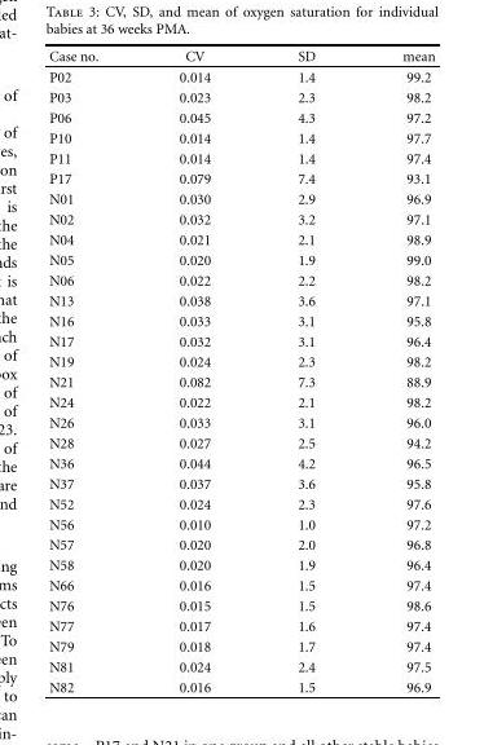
<table><thead><tr><td>Case no.</td><td>CV</td><td>SD</td><td>mean</td></tr></thead><tbody><tr><td>P02</td><td>0.014</td><td>1.4</td><td>99.2</td></tr><tr><td>P03</td><td>0.023</td><td>2.3</td><td>98.2</td></tr><tr><td>P06</td><td>0.045</td><td>4.3</td><td>97.2</td></tr><tr><td>P10</td><td>0.014</td><td>1.4</td><td>97.7</td></tr><tr><td>P11</td><td>0.014</td><td>1.4</td><td>97.4</td></tr><tr><td>P17</td><td>0.079</td><td>7.4</td><td>93.1</td></tr><tr><td>N01</td><td>0.030</td><td>2.9</td><td>96.9</td></tr><tr><td>N02</td><td>0.032</td><td>3.2</td><td>97.1</td></tr><tr><td>N04</td><td>0.021</td><td>2.1</td><td>98.9</td></tr><tr><td>N05</td><td>0.020</td><td>1.9</td><td>99.0</td></tr><tr><td>N06</td><td>0.022</td><td>2.2</td><td>98.2</td></tr><tr><td>N13</td><td>0.038</td><td>3.6</td><td>97.1</td></tr><tr><td>N16</td><td>0.033</td><td>3.1</td><td>95.8</td></tr><tr><td>N17</td><td>0.032</td><td>3.1</td><td>96.4</td></tr><tr><td>N19</td><td>0.024</td><td>2.3</td><td>98.2</td></tr><tr><td>N21</td><td>0.082</td><td>7.3</td><td>88.9</td></tr><tr><td>N24</td><td>0.022</td><td>2.1</td><td>98.2</td></tr><tr><td>N26</td><td>0.033</td><td>3.1</td><td>96.0</td></tr><tr><td>N28</td><td>0.027</td><td>2.5</td><td>94.2</td></tr><tr><td>N36</td><td>0.044</td><td>4.2</td><td>96.5</td></tr><tr><td>N37</td><td>0.037</td><td>3.6</td><td>95.8</td></tr><tr><td>N52</td><td>0.024</td><td>2.3</td><td>97.6</td></tr><tr><td>N56</td><td>0.010</td><td>1.0</td><td>97.2</td></tr><tr><td>N57</td><td>0.020</td><td>2.0</td><td>96.8</td></tr><tr><td>N58</td><td>0.020</td><td>1.9</td><td>96.4</td></tr><tr><td>N66</td><td>0.016</td><td>1.5</td><td>97.4</td></tr><tr><td>N76</td><td>0.015</td><td>1.5</td><td>98.6</td></tr><tr><td>N77</td><td>0.017</td><td>1.6</td><td>97.4</td></tr><tr><td>N79</td><td>0.018</td><td>1.7</td><td>97.4</td></tr><tr><td>N81</td><td>0.024</td><td>2.4</td><td>97.5</td></tr><tr><td>N82</td><td>0.016</td><td>1.5</td><td>96.9</td></tr></tbody></table>